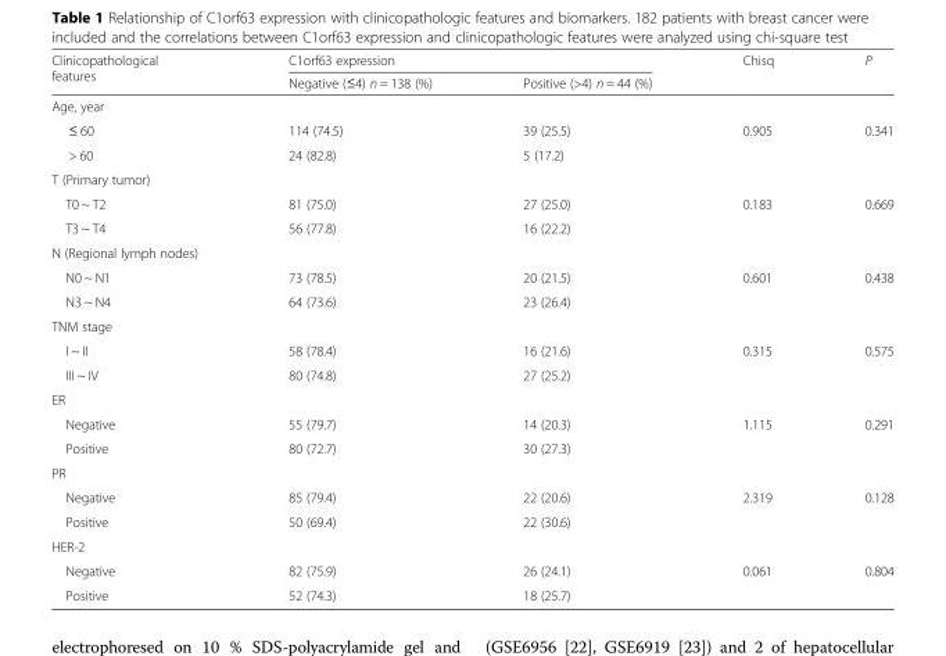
<table><thead><tr><td rowspan="2">Clinicopathological features</td><td colspan="2">C1orf63 expression</td><td rowspan="2">Chisq</td><td rowspan="2">P</td></tr><tr><td>Negative (≤4) n = 138 (%)</td><td>Positive (&gt;4) n = 44 (%)</td></tr></thead><tbody><tr><td colspan="5">Age, year</td></tr><tr><td>≤ 60</td><td>114 (74.5)</td><td>39 (25.5)</td><td>0.905</td><td>0.341</td></tr><tr><td>&gt; 60</td><td>24 (82.8)</td><td>5 (17.2)</td><td></td><td></td></tr><tr><td colspan="5">T (Primary tumor)</td></tr><tr><td>T0 ~ T2</td><td>81 (75.0)</td><td>27 (25.0)</td><td>0.183</td><td>0.669</td></tr><tr><td>T3 ~ T4</td><td>56 (77.8)</td><td>16 (22.2)</td><td></td><td></td></tr><tr><td colspan="5">N (Regional lymph nodes)</td></tr><tr><td>N0 ~ N1</td><td>73 (78.5)</td><td>20 (21.5)</td><td>0.601</td><td>0.438</td></tr><tr><td>N3 ~ N4</td><td>64 (73.6)</td><td>23 (26.4)</td><td></td><td></td></tr><tr><td colspan="5">TNM stage</td></tr><tr><td>I ~ II</td><td>58 (78.4)</td><td>16 (21.6)</td><td>0.315</td><td>0.575</td></tr><tr><td>III ~ IV</td><td>80 (74.8)</td><td>27 (25.2)</td><td></td><td></td></tr><tr><td colspan="5">ER</td></tr><tr><td>Negative</td><td>55 (79.7)</td><td>14 (20.3)</td><td>1.115</td><td>0.291</td></tr><tr><td>Positive</td><td>80 (72.7)</td><td>30 (27.3)</td><td></td><td></td></tr><tr><td colspan="5">PR</td></tr><tr><td>Negative</td><td>85 (79.4)</td><td>22 (20.6)</td><td>2.319</td><td>0.128</td></tr><tr><td>Positive</td><td>50 (69.4)</td><td>22 (30.6)</td><td></td><td></td></tr><tr><td colspan="5">HER-2</td></tr><tr><td>Negative</td><td>82 (75.9)</td><td>26 (24.1)</td><td>0.061</td><td>0.804</td></tr><tr><td>Positive</td><td>52 (74.3)</td><td>18 (25.7)</td><td></td><td></td></tr></tbody></table>